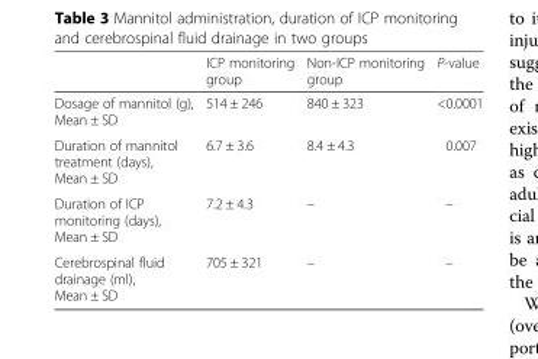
<table><thead><tr><td></td><td>ICP monitoring group</td><td>Non-ICP monitoring group</td><td>P-value</td></tr></thead><tbody><tr><td>Dosage of mannitol (g), Mean ± SD</td><td>514 ± 246</td><td>840 ± 323</td><td>&lt;0.0001</td></tr><tr><td>Duration of mannitol treatment (days), Mean ± SD</td><td>6.7 ± 3.6</td><td>8.4 ± 4.3</td><td>0.007</td></tr><tr><td>Duration of ICP monitoring (days), Mean ± SD</td><td>7.2 ± 4.3</td><td>–</td><td>–</td></tr><tr><td>Cerebrospinal fluid drainage (ml), Mean ± SD</td><td>705 ± 321</td><td>–</td><td>–</td></tr></tbody></table>